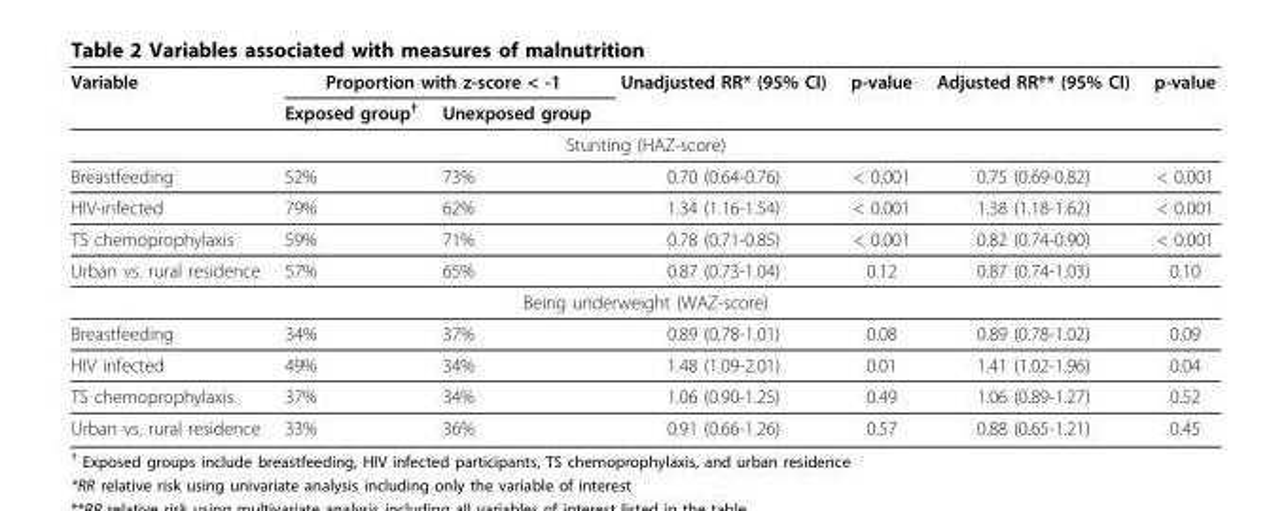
<table><thead><tr><td rowspan="2">Variable</td><td colspan="2">Proportion with z-score &lt; -1</td><td rowspan="2">Unadjusted RR* (95% CI)</td><td rowspan="2">p-value</td><td rowspan="2">Adjusted RR** (95% CI)</td><td rowspan="2">p-value</td></tr><tr><td>Exposed group<sup>†</sup></td><td>Unexposed group</td></tr></thead><tbody><tr><td colspan="7">Stunting (HAZ-score)</td></tr><tr><td>Breastfeeding</td><td>52%</td><td>73%</td><td>0.70 (0.64-0.76)</td><td>&lt; 0.001</td><td>0.75 (0.69-0.82)</td><td>&lt; 0.001</td></tr><tr><td>HIV-infected</td><td>79%</td><td>62%</td><td>1.34 (1.16-1.54)</td><td>&lt; 0.001</td><td>1.38 (1.18-1.62)</td><td>&lt; 0.001</td></tr><tr><td>TS chemoprophylaxis</td><td>59%</td><td>71%</td><td>0.78 (0.71-0.85)</td><td>&lt; 0.001</td><td>0.82 (0.74-0.90)</td><td>&lt; 0.001</td></tr><tr><td>Urban vs. rural residence</td><td>57%</td><td>65%</td><td>0.87 (0.73-1.04)</td><td>0.12</td><td>0.87 (0.74-1.03)</td><td>0.10</td></tr><tr><td colspan="7">Being underweight (WAZ-score)</td></tr><tr><td>Breastfeeding</td><td>34%</td><td>37%</td><td>0.89 (0.78-1.01)</td><td>0.08</td><td>0.89 (0.78-1.02)</td><td>0.09</td></tr><tr><td>HIV infected</td><td>49%</td><td>34%</td><td>1.48 (1.09-2.01)</td><td>0.01</td><td>1.41 (1.02-1.96)</td><td>0.04</td></tr><tr><td>TS chemoprophylaxis</td><td>37%</td><td>34%</td><td>1.06 (0.90-1.25)</td><td>0.49</td><td>1.06 (0.89-1.27)</td><td>0.52</td></tr><tr><td>Urban vs. rural residence</td><td>33%</td><td>36%</td><td>0.91 (0.66-1.26)</td><td>0.57</td><td>0.88 (0.65-1.21)</td><td>0.45</td></tr></tbody></table>